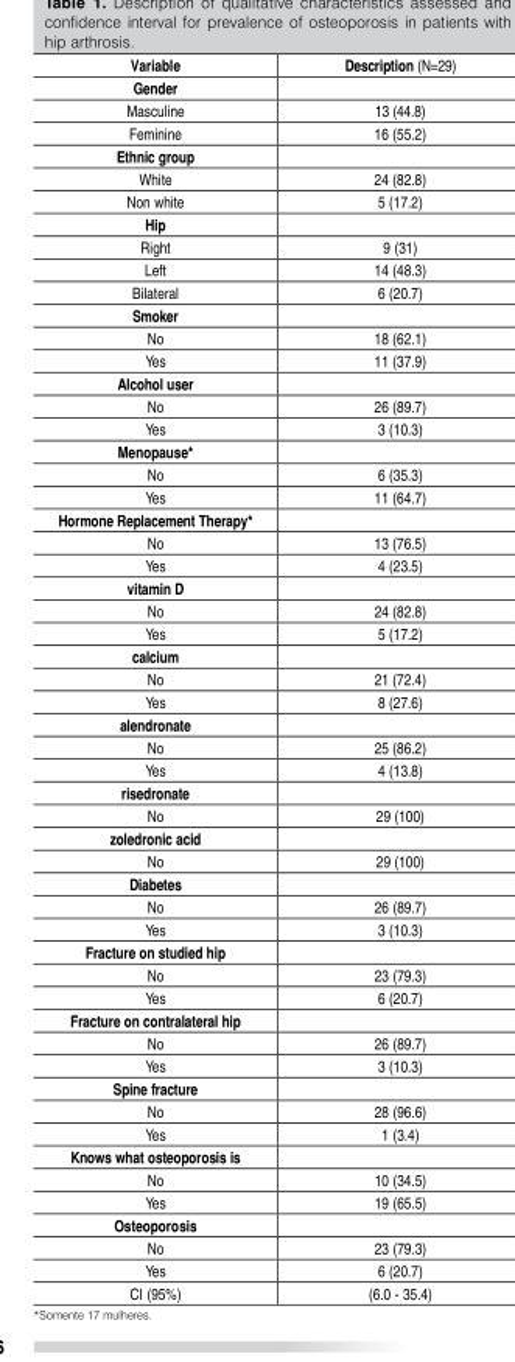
<table><thead><tr><td>Variable</td><td>Description (N=29)</td></tr></thead><tbody><tr><td colspan="2">Gender</td></tr><tr><td>Masculine</td><td>13 (44.8)</td></tr><tr><td>Feminine</td><td>16 (55.2)</td></tr><tr><td colspan="2">Ethnic group</td></tr><tr><td>White</td><td>24 (82.8)</td></tr><tr><td>Non white</td><td>5 (17.2)</td></tr><tr><td colspan="2">Hip</td></tr><tr><td>Right</td><td>9 (31)</td></tr><tr><td>Left</td><td>14 (48.3)</td></tr><tr><td>Bilateral</td><td>6 (20.7)</td></tr><tr><td colspan="2">Smoker</td></tr><tr><td>No</td><td>18 (62.1)</td></tr><tr><td>Yes</td><td>11 (37.9)</td></tr><tr><td colspan="2">Alcohol user</td></tr><tr><td>No</td><td>26 (89.7)</td></tr><tr><td>Yes</td><td>3 (10.3)</td></tr><tr><td colspan="2">Menopause*</td></tr><tr><td>No</td><td>6 (35.3)</td></tr><tr><td>Yes</td><td>11 (64.7)</td></tr><tr><td colspan="2">Hormone Replacement Therapy*</td></tr><tr><td>No</td><td>13 (76.5)</td></tr><tr><td>Yes</td><td>4 (23.5)</td></tr><tr><td colspan="2">vitamin D</td></tr><tr><td>No</td><td>24 (82.8)</td></tr><tr><td>Yes</td><td>5 (17.2)</td></tr><tr><td colspan="2">calcium</td></tr><tr><td>No</td><td>21 (72.4)</td></tr><tr><td>Yes</td><td>8 (27.6)</td></tr><tr><td colspan="2">alendronate</td></tr><tr><td>No</td><td>25 (86.2)</td></tr><tr><td>Yes</td><td>4 (13.8)</td></tr><tr><td colspan="2">risedronate</td></tr><tr><td>No</td><td>29 (100)</td></tr><tr><td colspan="2">zoledronic acid</td></tr><tr><td>No</td><td>29 (100)</td></tr><tr><td colspan="2">Diabetes</td></tr><tr><td>No</td><td>26 (89.7)</td></tr><tr><td>Yes</td><td>3 (10.3)</td></tr><tr><td colspan="2">Fracture on studied hip</td></tr><tr><td>No</td><td>23 (79.3)</td></tr><tr><td>Yes</td><td>6 (20.7)</td></tr><tr><td colspan="2">Fracture on contralateral hip</td></tr><tr><td>No</td><td>26 (89.7)</td></tr><tr><td>Yes</td><td>3 (10.3)</td></tr><tr><td colspan="2">Spine fracture</td></tr><tr><td>No</td><td>28 (96.6)</td></tr><tr><td>Yes</td><td>1 (3.4)</td></tr><tr><td colspan="2">Knows what osteoporosis is</td></tr><tr><td>No</td><td>10 (34.5)</td></tr><tr><td>Yes</td><td>19 (65.5)</td></tr><tr><td colspan="2">Osteoporosis</td></tr><tr><td>No</td><td>23 (79.3)</td></tr><tr><td>Yes</td><td>6 (20.7)</td></tr><tr><td>CI (95%)</td><td>(6.0 - 35.4)</td></tr></tbody></table>